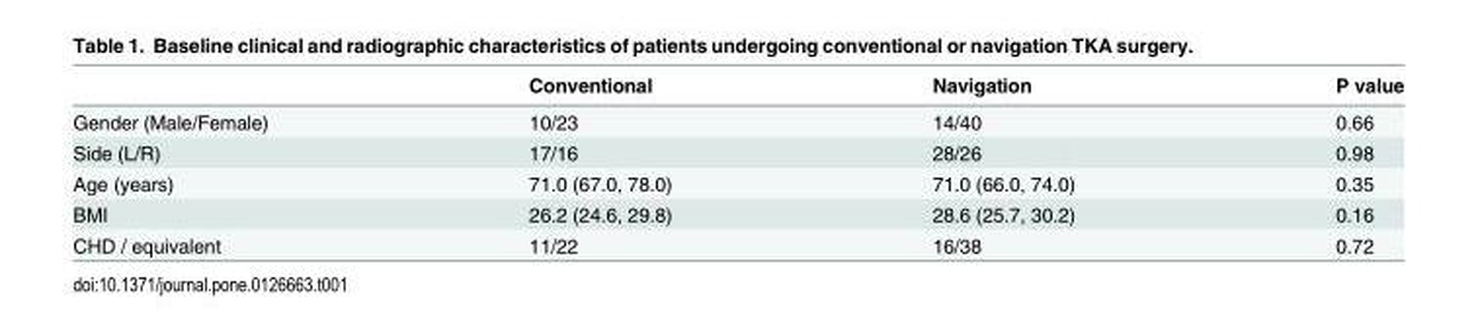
<table><thead><tr><td></td><td>Conventional</td><td>Navigation</td><td>P value</td></tr></thead><tbody><tr><td>Gender (Male/Female)</td><td>10/23</td><td>14/40</td><td>0.66</td></tr><tr><td>Side (L/R)</td><td>17/16</td><td>28/26</td><td>0.98</td></tr><tr><td>Age (years)</td><td>71.0 (67.0, 78.0)</td><td>71.0 (66.0, 74.0)</td><td>0.35</td></tr><tr><td>BMI</td><td>26.2 (24.6, 29.8)</td><td>28.6 (25.7, 30.2)</td><td>0.16</td></tr><tr><td>CHD / equivalent</td><td>11/22</td><td>16/38</td><td>0.72</td></tr></tbody></table>